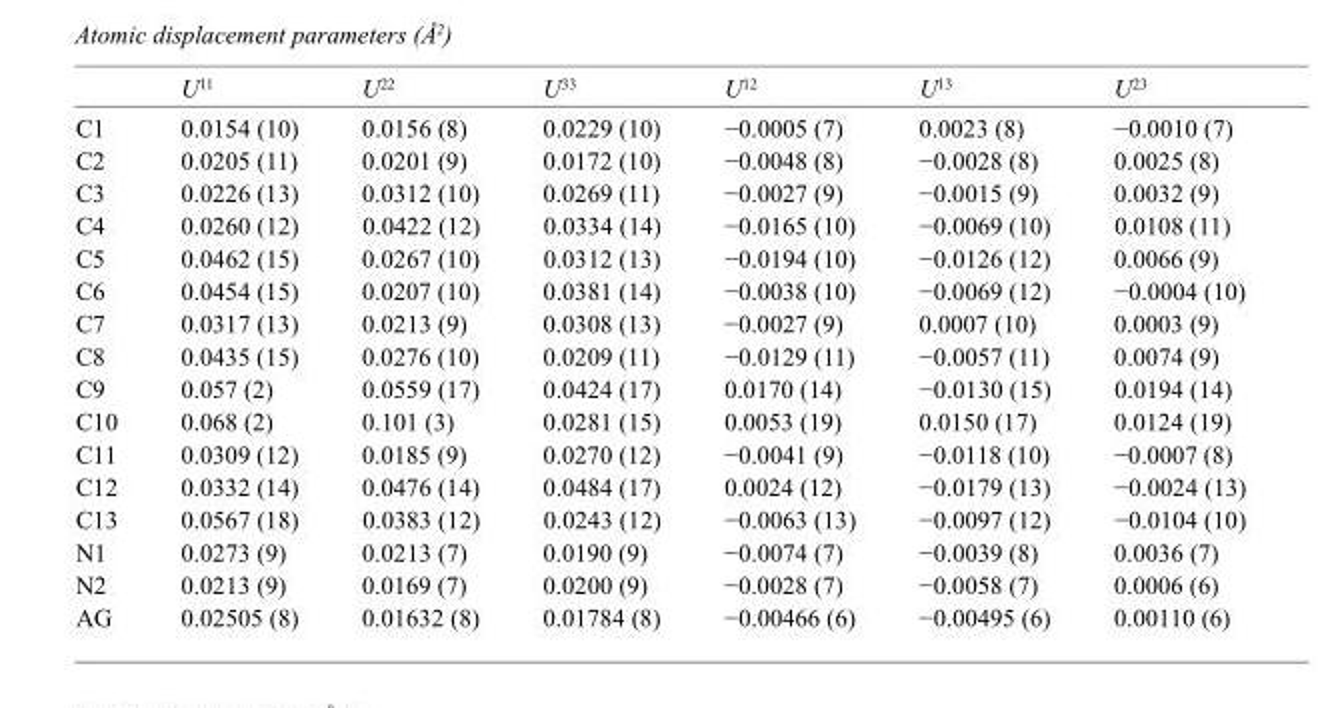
<table><thead><tr><td></td><td>U<sup>11</sup></td><td>U<sup>22</sup></td><td>U<sup>33</sup></td><td>U<sup>12</sup></td><td>U<sup>13</sup></td><td>U<sup>23</sup></td></tr></thead><tbody><tr><td>C1</td><td>0.0154 (10)</td><td>0.0156 (8)</td><td>0.0229 (10)</td><td>−0.0005 (7)</td><td>0.0023 (8)</td><td>−0.0010 (7)</td></tr><tr><td>C2</td><td>0.0205 (11)</td><td>0.0201 (9)</td><td>0.0172 (10)</td><td>−0.0048 (8)</td><td>−0.0028 (8)</td><td>0.0025 (8)</td></tr><tr><td>C3</td><td>0.0226 (13)</td><td>0.0312 (10)</td><td>0.0269 (11)</td><td>−0.0027 (9)</td><td>−0.0015 (9)</td><td>0.0032 (9)</td></tr><tr><td>C4</td><td>0.0260 (12)</td><td>0.0422 (12)</td><td>0.0334 (14)</td><td>−0.0165 (10)</td><td>−0.0069 (10)</td><td>0.0108 (11)</td></tr><tr><td>C5</td><td>0.0462 (15)</td><td>0.0267 (10)</td><td>0.0312 (13)</td><td>−0.0194 (10)</td><td>−0.0126 (12)</td><td>0.0066 (9)</td></tr><tr><td>C6</td><td>0.0454 (15)</td><td>0.0207 (10)</td><td>0.0381 (14)</td><td>−0.0038 (10)</td><td>−0.0069 (12)</td><td>−0.0004 (10)</td></tr><tr><td>C7</td><td>0.0317 (13)</td><td>0.0213 (9)</td><td>0.0308 (13)</td><td>−0.0027 (9)</td><td>0.0007 (10)</td><td>0.0003 (9)</td></tr><tr><td>C8</td><td>0.0435 (15)</td><td>0.0276 (10)</td><td>0.0209 (11)</td><td>−0.0129 (11)</td><td>−0.0057 (11)</td><td>0.0074 (9)</td></tr><tr><td>C9</td><td>0.057 (2)</td><td>0.0559 (17)</td><td>0.0424 (17)</td><td>0.0170 (14)</td><td>−0.0130 (15)</td><td>0.0194 (14)</td></tr><tr><td>C10</td><td>0.068 (2)</td><td>0.101 (3)</td><td>0.0281 (15)</td><td>0.0053 (19)</td><td>0.0150 (17)</td><td>0.0124 (19)</td></tr><tr><td>C11</td><td>0.0309 (12)</td><td>0.0185 (9)</td><td>0.0270 (12)</td><td>−0.0041 (9)</td><td>−0.0118 (10)</td><td>−0.0007 (8)</td></tr><tr><td>C12</td><td>0.0332 (14)</td><td>0.0476 (14)</td><td>0.0484 (17)</td><td>0.0024 (12)</td><td>−0.0179 (13)</td><td>−0.0024 (13)</td></tr><tr><td>C13</td><td>0.0567 (18)</td><td>0.0383 (12)</td><td>0.0243 (12)</td><td>−0.0063 (13)</td><td>−0.0097 (12)</td><td>−0.0104 (10)</td></tr><tr><td>N1</td><td>0.0273 (9)</td><td>0.0213 (7)</td><td>0.0190 (9)</td><td>−0.0074 (7)</td><td>−0.0039 (8)</td><td>0.0036 (7)</td></tr><tr><td>N2</td><td>0.0213 (9)</td><td>0.0169 (7)</td><td>0.0200 (9)</td><td>−0.0028 (7)</td><td>−0.0058 (7)</td><td>0.0006 (6)</td></tr><tr><td>AG</td><td>0.02505 (8)</td><td>0.01632 (8)</td><td>0.01784 (8)</td><td>−0.00466 (6)</td><td>−0.00495 (6)</td><td>0.00110 (6)</td></tr></tbody></table>